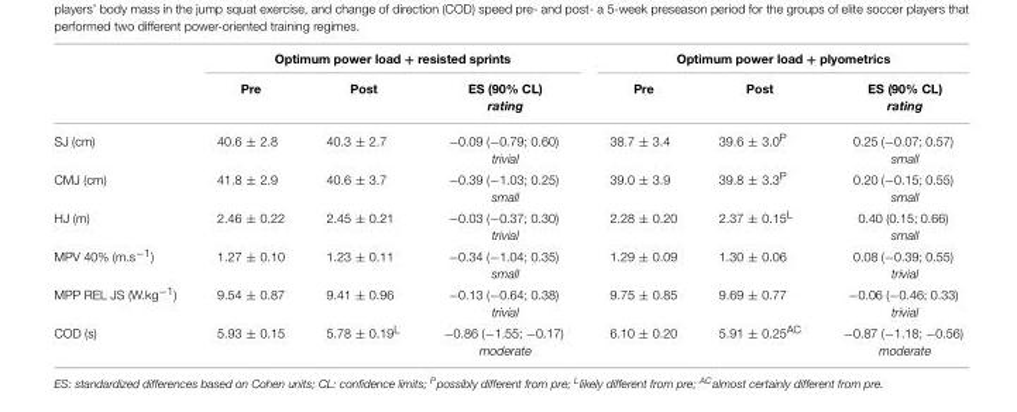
<table><thead><tr><td rowspan="2"></td><td colspan="3">Optimum power load + resisted sprints</td><td colspan="3">Optimum power load + plyometrics</td></tr><tr><td>Pre</td><td>Post</td><td>ES (90% CL) rating</td><td>Pre</td><td>Post</td><td>ES (90% CL) rating</td></tr></thead><tbody><tr><td>SJ (cm)</td><td>40.6 ± 2.8</td><td>40.3 ± 2.7</td><td>−0.09 (−0.79; 0.60) trivial</td><td>38.7 ± 3.4</td><td>39.6 ± 3.0<sup>P</sup></td><td>0.25 (−0.07; 0.57) small</td></tr><tr><td>CMJ (cm)</td><td>41.8 ± 2.9</td><td>40.6 ± 3.7</td><td>−0.39 (−1.03; 0.25) small</td><td>39.0 ± 3.9</td><td>39.8 ± 3.3<sup>P</sup></td><td>0.20 (−0.15; 0.55) small</td></tr><tr><td>HJ (m)</td><td>2.46 ± 0.22</td><td>2.45 ± 0.21</td><td>−0.03 (−0.37; 0.30) trivial</td><td>2.28 ± 0.20</td><td>2.37 ± 0.15<sup>L</sup></td><td>0.40 (0.15; 0.66) small</td></tr><tr><td>MPV 40% (m.s<sup>−1</sup>)</td><td>1.27 ± 0.10</td><td>1.23 ± 0.11</td><td>−0.34 (−1.04; 0.35) small</td><td>1.29 ± 0.09</td><td>1.30 ± 0.06</td><td>0.08 (−0.39; 0.55) trivial</td></tr><tr><td>MPP REL JS (W.kg<sup>−1</sup>)</td><td>9.54 ± 0.87</td><td>9.41 ± 0.96</td><td>−0.13 (−0.64; 0.38) trivial</td><td>9.75 ± 0.85</td><td>9.69 ± 0.77</td><td>−0.06 (−0.46; 0.33) trivial</td></tr><tr><td>COD (s)</td><td>5.93 ± 0.15</td><td>5.78 ± 0.19<sup>L</sup></td><td>−0.86 (−1.55; −0.17) moderate</td><td>6.10 ± 0.20</td><td>5.91 ± 0.25<sup>AC</sup></td><td>−0.87 (−1.18; −0.56) moderate</td></tr></tbody></table>